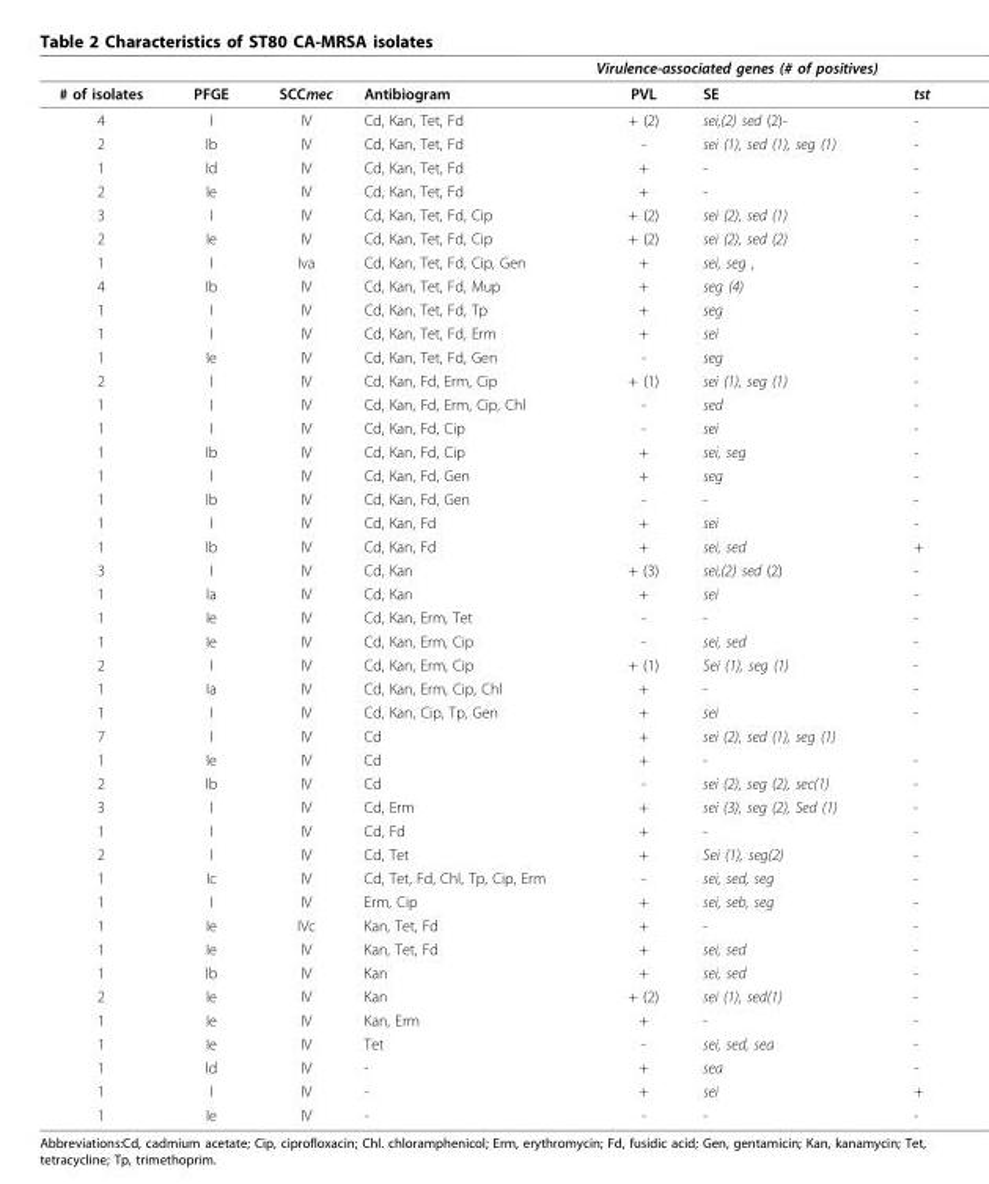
<table><thead><tr><td rowspan="2"># of isolates</td><td rowspan="2">PFGE</td><td rowspan="2">SCCmec</td><td rowspan="2">Antibiogram</td><td colspan="3">Virulence-associated genes (# of positives)</td></tr><tr><td>PVL</td><td>SE</td><td>tst</td></tr></thead><tbody><tr><td>4</td><td>I</td><td>IV</td><td>Cd, Kan, Tet, Fd</td><td>+ (2)</td><td>sei,(2) sed (2)-</td><td>-</td></tr><tr><td>2</td><td>Ib</td><td>IV</td><td>Cd, Kan, Tet, Fd</td><td>-</td><td>sei (1), sed (1), seg (1)</td><td>-</td></tr><tr><td>1</td><td>Id</td><td>IV</td><td>Cd, Kan, Tet, Fd</td><td>+</td><td>-</td><td>-</td></tr><tr><td>2</td><td>Ie</td><td>IV</td><td>Cd, Kan, Tet, Fd</td><td>+</td><td>-</td><td>-</td></tr><tr><td>3</td><td>I</td><td>IV</td><td>Cd, Kan, Tet, Fd, Cip</td><td>+ (2)</td><td>sei (2), sed (1)</td><td>-</td></tr><tr><td>2</td><td>Ie</td><td>IV</td><td>Cd, Kan, Tet, Fd, Cip</td><td>+ (2)</td><td>sei (2), sed (2)</td><td>-</td></tr><tr><td>1</td><td>I</td><td>Iva</td><td>Cd, Kan, Tet, Fd, Cip, Gen</td><td>+</td><td>sei, seg ,</td><td>-</td></tr><tr><td>4</td><td>Ib</td><td>IV</td><td>Cd, Kan, Tet, Fd, Mup</td><td>+</td><td>seg (4)</td><td>-</td></tr><tr><td>1</td><td>I</td><td>IV</td><td>Cd, Kan, Tet, Fd, Tp</td><td>+</td><td>seg</td><td>-</td></tr><tr><td>1</td><td>I</td><td>IV</td><td>Cd, Kan, Tet, Fd, Erm</td><td>+</td><td>sei</td><td>-</td></tr><tr><td>1</td><td>Ie</td><td>IV</td><td>Cd, Kan, Tet, Fd, Gen</td><td>-</td><td>seg</td><td>-</td></tr><tr><td>2</td><td>I</td><td>IV</td><td>Cd, Kan, Fd, Erm, Cip</td><td>+ (1)</td><td>sei (1), seg (1)</td><td>-</td></tr><tr><td>1</td><td>I</td><td>IV</td><td>Cd, Kan, Fd, Erm, Cip, Chl</td><td>-</td><td>sed</td><td>-</td></tr><tr><td>1</td><td>I</td><td>IV</td><td>Cd, Kan, Fd, Cip</td><td>-</td><td>sei</td><td>-</td></tr><tr><td>1</td><td>Ib</td><td>IV</td><td>Cd, Kan, Fd, Cip</td><td>+</td><td>sei, seg</td><td>-</td></tr><tr><td>1</td><td>I</td><td>IV</td><td>Cd, Kan, Fd, Gen</td><td>+</td><td>seg</td><td>-</td></tr><tr><td>1</td><td>Ib</td><td>IV</td><td>Cd, Kan, Fd, Gen</td><td>-</td><td>-</td><td>-</td></tr><tr><td>1</td><td>I</td><td>IV</td><td>Cd, Kan, Fd</td><td>+</td><td>sei</td><td>-</td></tr><tr><td>1</td><td>Ib</td><td>IV</td><td>Cd, Kan, Fd</td><td>+</td><td>sei, sed</td><td>+</td></tr><tr><td>3</td><td>I</td><td>IV</td><td>Cd, Kan</td><td>+ (3)</td><td>sei,(2) sed (2)</td><td>-</td></tr><tr><td>1</td><td>Ia</td><td>IV</td><td>Cd, Kan</td><td>+</td><td>sei</td><td>-</td></tr><tr><td>1</td><td>Ie</td><td>IV</td><td>Cd, Kan, Erm, Tet</td><td>-</td><td>-</td><td>-</td></tr><tr><td>1</td><td>Ie</td><td>IV</td><td>Cd, Kan, Erm, Cip</td><td>-</td><td>sei, sed</td><td>-</td></tr><tr><td>2</td><td>I</td><td>IV</td><td>Cd, Kan, Erm, Cip</td><td>+ (1)</td><td>Sei (1), seg (1)</td><td>-</td></tr><tr><td>1</td><td>Ia</td><td>IV</td><td>Cd, Kan, Erm, Cip, Chl</td><td>+</td><td>-</td><td>-</td></tr><tr><td>1</td><td>I</td><td>IV</td><td>Cd, Kan, Cip, Tp, Gen</td><td>+</td><td>sei</td><td>-</td></tr><tr><td>7</td><td>I</td><td>IV</td><td>Cd</td><td>+</td><td>sei (2), sed (1), seg (1)</td><td></td></tr><tr><td>1</td><td>Ie</td><td>IV</td><td>Cd</td><td>+</td><td>-</td><td>-</td></tr><tr><td>2</td><td>Ib</td><td>IV</td><td>Cd</td><td>-</td><td>sei (2), seg (2), sec(1)</td><td>-</td></tr><tr><td>3</td><td>I</td><td>IV</td><td>Cd, Erm</td><td>+</td><td>sei (3), seg (2), Sed (1)</td><td>-</td></tr><tr><td>1</td><td>I</td><td>IV</td><td>Cd, Fd</td><td>+</td><td>-</td><td>-</td></tr><tr><td>2</td><td>I</td><td>IV</td><td>Cd, Tet</td><td>+</td><td>Sei (1), seg(2)</td><td>-</td></tr><tr><td>1</td><td>Ic</td><td>IV</td><td>Cd, Tet, Fd, Chl, Tp, Cip, Erm</td><td>-</td><td>sei, sed, seg</td><td>-</td></tr><tr><td>1</td><td>I</td><td>IV</td><td>Erm, Cip</td><td>+</td><td>sei, seb, seg</td><td>-</td></tr><tr><td>1</td><td>Ie</td><td>IVc</td><td>Kan, Tet, Fd</td><td>+</td><td>-</td><td>-</td></tr><tr><td>1</td><td>Ie</td><td>IV</td><td>Kan, Tet, Fd</td><td>+</td><td>sei, sed</td><td>-</td></tr><tr><td>1</td><td>Ib</td><td>IV</td><td>Kan</td><td>+</td><td>sei, sed</td><td>-</td></tr><tr><td>2</td><td>Ie</td><td>IV</td><td>Kan</td><td>+ (2)</td><td>sei (1), sed(1)</td><td>-</td></tr><tr><td>1</td><td>Ie</td><td>IV</td><td>Kan, Erm</td><td>+</td><td>-</td><td>-</td></tr><tr><td>1</td><td>Ie</td><td>IV</td><td>Tet</td><td>-</td><td>sei, sed, sea</td><td>-</td></tr><tr><td>1</td><td>Id</td><td>IV</td><td>-</td><td>+</td><td>sea</td><td>-</td></tr><tr><td>1</td><td>I</td><td>IV</td><td>-</td><td>+</td><td>sei</td><td>+</td></tr><tr><td>1</td><td>Ie</td><td>IV</td><td>-</td><td>-</td><td>-</td><td>-</td></tr></tbody></table>